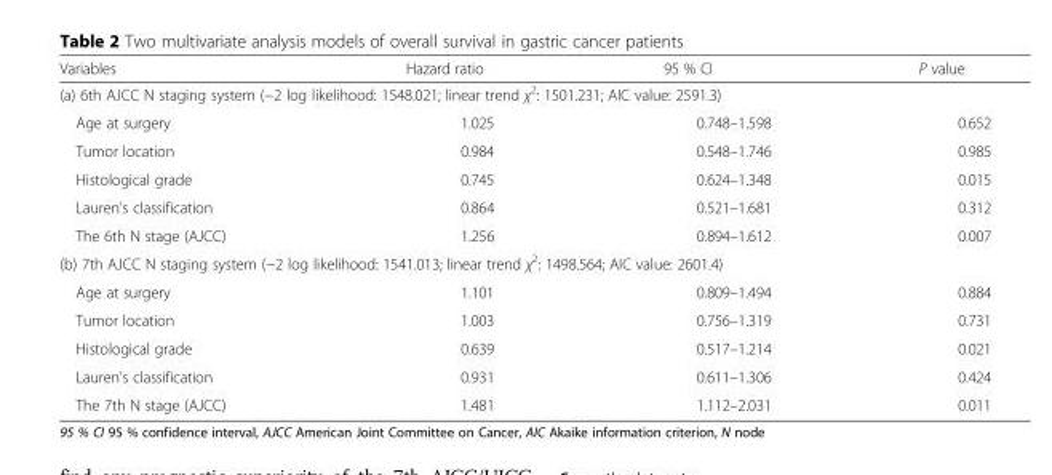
<table><thead><tr><td>Variables</td><td>Hazard ratio</td><td>95 % CI</td><td>P value</td></tr></thead><tbody><tr><td colspan="4">(a) 6th AJCC N staging system (−2 log likelihood: 1548.021; linear trend χ<sup>2</sup>: 1501.231; AIC value: 2591.3)</td></tr><tr><td>Age at surgery</td><td>1.025</td><td>0.748–1.598</td><td>0.652</td></tr><tr><td>Tumor location</td><td>0.984</td><td>0.548–1.746</td><td>0.985</td></tr><tr><td>Histological grade</td><td>0.745</td><td>0.624–1.348</td><td>0.015</td></tr><tr><td>Lauren’s classification</td><td>0.864</td><td>0.521–1.681</td><td>0.312</td></tr><tr><td>The 6th N stage (AJCC)</td><td>1.256</td><td>0.894–1.612</td><td>0.007</td></tr><tr><td colspan="4">(b) 7th AJCC N staging system (−2 log likelihood: 1541.013; linear trend χ<sup>2</sup>: 1498.564; AIC value: 2601.4)</td></tr><tr><td>Age at surgery</td><td>1.101</td><td>0.809–1.494</td><td>0.884</td></tr><tr><td>Tumor location</td><td>1.003</td><td>0.756–1.319</td><td>0.731</td></tr><tr><td>Histological grade</td><td>0.639</td><td>0.517–1.214</td><td>0.021</td></tr><tr><td>Lauren’s classification</td><td>0.931</td><td>0.611–1.306</td><td>0.424</td></tr><tr><td>The 7th N stage (AJCC)</td><td>1.481</td><td>1.112–2.031</td><td>0.011</td></tr></tbody></table>